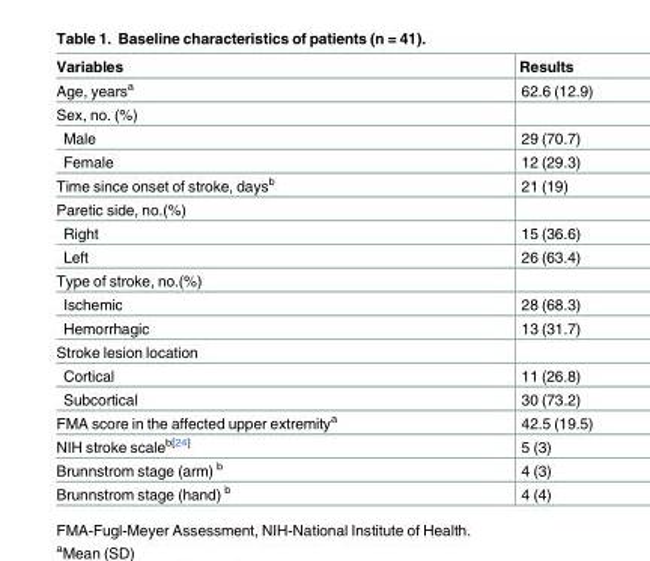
<table><thead><tr><td>Variables</td><td>Results</td></tr></thead><tbody><tr><td>Age, years<sup>a</sup></td><td>62.6 (12.9)</td></tr><tr><td colspan="2">Sex, no. (%)</td></tr><tr><td>Male</td><td>29 (70.7)</td></tr><tr><td>Female</td><td>12 (29.3)</td></tr><tr><td>Time since onset of stroke, days<sup>b</sup></td><td>21 (19)</td></tr><tr><td colspan="2">Paretic side, no.(%)</td></tr><tr><td>Right</td><td>15 (36.6)</td></tr><tr><td>Left</td><td>26 (63.4)</td></tr><tr><td colspan="2">Type of stroke, no.(%)</td></tr><tr><td>Ischemic</td><td>28 (68.3)</td></tr><tr><td>Hemorrhagic</td><td>13 (31.7)</td></tr><tr><td colspan="2">Stroke lesion location</td></tr><tr><td>Cortical</td><td>11 (26.8)</td></tr><tr><td>Subcortical</td><td>30 (73.2)</td></tr><tr><td>FMA score in the affected upper extremity<sup>a</sup></td><td>42.5 (19.5)</td></tr><tr><td>NIH stroke scale<sup>b[24]</sup></td><td>5 (3)</td></tr><tr><td>Brunnstrom stage (arm) <sup>b</sup></td><td>4 (3)</td></tr><tr><td>Brunnstrom stage (hand) <sup>b</sup></td><td>4 (4)</td></tr></tbody></table>